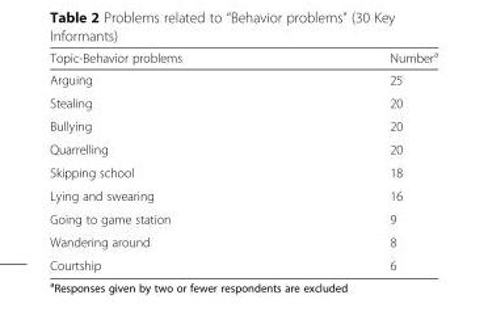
<table><thead><tr><td>Topic-Behavior problems</td><td>Number<sup>a</sup></td></tr></thead><tbody><tr><td>Arguing</td><td>25</td></tr><tr><td>Stealing</td><td>20</td></tr><tr><td>Bullying</td><td>20</td></tr><tr><td>Quarrelling</td><td>20</td></tr><tr><td>Skipping school</td><td>18</td></tr><tr><td>Lying and swearing</td><td>16</td></tr><tr><td>Going to game station</td><td>9</td></tr><tr><td>Wandering around</td><td>8</td></tr><tr><td>Courtship</td><td>6</td></tr></tbody></table>